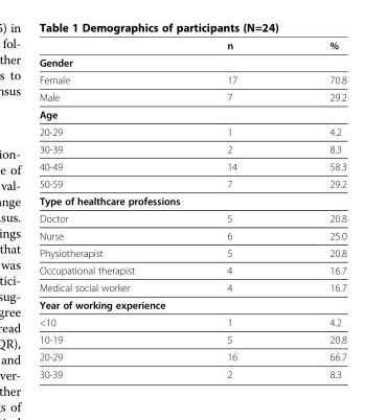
<table><thead><tr><td></td><td>n</td><td>%</td></tr></thead><tbody><tr><td colspan="3">Gender</td></tr><tr><td>Female</td><td>17</td><td>70.8</td></tr><tr><td>Male</td><td>7</td><td>29.2</td></tr><tr><td colspan="3">Age</td></tr><tr><td>20-29</td><td>1</td><td>4.2</td></tr><tr><td>30-39</td><td>2</td><td>8.3</td></tr><tr><td>40-49</td><td>14</td><td>58.3</td></tr><tr><td>50-59</td><td>7</td><td>29.2</td></tr><tr><td colspan="3">Type of healthcare professions</td></tr><tr><td>Doctor</td><td>5</td><td>20.8</td></tr><tr><td>Nurse</td><td>6</td><td>25.0</td></tr><tr><td>Physiotherapist</td><td>5</td><td>20.8</td></tr><tr><td>Occupational therapist</td><td>4</td><td>16.7</td></tr><tr><td>Medical social worker</td><td>4</td><td>16.7</td></tr><tr><td colspan="3">Year of working experience</td></tr><tr><td>&lt;10</td><td>1</td><td>4.2</td></tr><tr><td>10-19</td><td>5</td><td>20.8</td></tr><tr><td>20-29</td><td>16</td><td>66.7</td></tr><tr><td>30-39</td><td>2</td><td>8.3</td></tr></tbody></table>